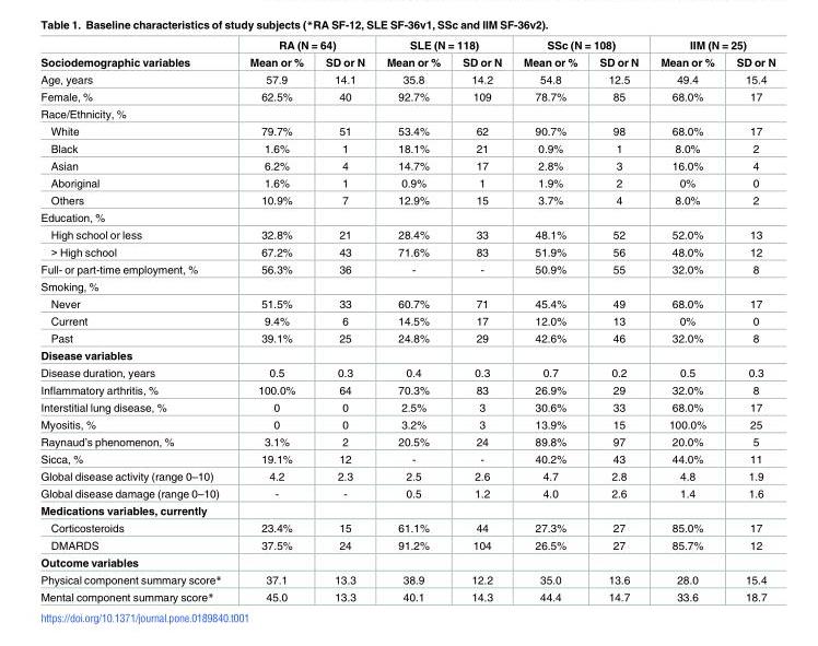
<table><thead><tr><td rowspan="2">Sociodemographic variables</td><td colspan="2">RA (N = 64)</td><td colspan="2">SLE (N = 118)</td><td colspan="2">SSc (N = 108)</td><td colspan="2">IIM (N = 25)</td></tr><tr><td>Mean or %</td><td>SD or N</td><td>Mean or %</td><td>SD or N</td><td>Mean or %</td><td>SD or N</td><td>Mean or %</td><td>SD or N</td></tr></thead><tbody><tr><td>Age, years</td><td>57.9</td><td>14.1</td><td>35.8</td><td>14.2</td><td>54.8</td><td>12.5</td><td>49.4</td><td>15.4</td></tr><tr><td>Female, %</td><td>62.5%</td><td>40</td><td>92.7%</td><td>109</td><td>78.7%</td><td>85</td><td>68.0%</td><td>17</td></tr><tr><td colspan="9">Race/Ethnicity, %</td></tr><tr><td>White</td><td>79.7%</td><td>51</td><td>53.4%</td><td>62</td><td>90.7%</td><td>98</td><td>68.0%</td><td>17</td></tr><tr><td>Black</td><td>1.6%</td><td>1</td><td>18.1%</td><td>21</td><td>0.9%</td><td>1</td><td>8.0%</td><td>2</td></tr><tr><td>Asian</td><td>6.2%</td><td>4</td><td>14.7%</td><td>17</td><td>2.8%</td><td>3</td><td>16.0%</td><td>4</td></tr><tr><td>Aboriginal</td><td>1.6%</td><td>1</td><td>0.9%</td><td>1</td><td>1.9%</td><td>2</td><td>0%</td><td>0</td></tr><tr><td>Others</td><td>10.9%</td><td>7</td><td>12.9%</td><td>15</td><td>3.7%</td><td>4</td><td>8.0%</td><td>2</td></tr><tr><td colspan="9">Education, %</td></tr><tr><td>High school or less</td><td>32.8%</td><td>21</td><td>28.4%</td><td>33</td><td>48.1%</td><td>52</td><td>52.0%</td><td>13</td></tr><tr><td>&gt; High school</td><td>67.2%</td><td>43</td><td>71.6%</td><td>83</td><td>51.9%</td><td>56</td><td>48.0%</td><td>12</td></tr><tr><td>Full- or part-time employment, %</td><td>56.3%</td><td>36</td><td>-</td><td>-</td><td>50.9%</td><td>55</td><td>32.0%</td><td>8</td></tr><tr><td colspan="9">Smoking, %</td></tr><tr><td>Never</td><td>51.5%</td><td>33</td><td>60.7%</td><td>71</td><td>45.4%</td><td>49</td><td>68.0%</td><td>17</td></tr><tr><td>Current</td><td>9.4%</td><td>6</td><td>14.5%</td><td>17</td><td>12.0%</td><td>13</td><td>0%</td><td>0</td></tr><tr><td>Past</td><td>39.1%</td><td>25</td><td>24.8%</td><td>29</td><td>42.6%</td><td>46</td><td>32.0%</td><td>8</td></tr><tr><td colspan="9">Disease variables</td></tr><tr><td>Disease duration, years</td><td>0.5</td><td>0.3</td><td>0.4</td><td>0.3</td><td>0.7</td><td>0.2</td><td>0.5</td><td>0.3</td></tr><tr><td>Inflammatory arthritis, %</td><td>100.0%</td><td>64</td><td>70.3%</td><td>83</td><td>26.9%</td><td>29</td><td>32.0%</td><td>8</td></tr><tr><td>Interstitial lung disease, %</td><td>0</td><td>0</td><td>2.5%</td><td>3</td><td>30.6%</td><td>33</td><td>68.0%</td><td>17</td></tr><tr><td>Myositis, %</td><td>0</td><td>0</td><td>3.2%</td><td>3</td><td>13.9%</td><td>15</td><td>100.0%</td><td>25</td></tr><tr><td>Raynaud’s phenomenon, %</td><td>3.1%</td><td>2</td><td>20.5%</td><td>24</td><td>89.8%</td><td>97</td><td>20.0%</td><td>5</td></tr><tr><td>Sicca, %</td><td>19.1%</td><td>12</td><td>-</td><td>-</td><td>40.2%</td><td>43</td><td>44.0%</td><td>11</td></tr><tr><td>Global disease activity (range 0–10)</td><td>4.2</td><td>2.3</td><td>2.5</td><td>2.6</td><td>4.7</td><td>2.8</td><td>4.8</td><td>1.9</td></tr><tr><td>Global disease damage (range 0–10)</td><td>-</td><td>-</td><td>0.5</td><td>1.2</td><td>4.0</td><td>2.6</td><td>1.4</td><td>1.6</td></tr><tr><td colspan="9">Medications variables, currently</td></tr><tr><td>Corticosteroids</td><td>23.4%</td><td>15</td><td>61.1%</td><td>44</td><td>27.3%</td><td>27</td><td>85.0%</td><td>17</td></tr><tr><td>DMARDS</td><td>37.5%</td><td>24</td><td>91.2%</td><td>104</td><td>26.5%</td><td>27</td><td>85.7%</td><td>12</td></tr><tr><td colspan="9">Outcome variables</td></tr><tr><td>Physical component summary score*</td><td>37.1</td><td>13.3</td><td>38.9</td><td>12.2</td><td>35.0</td><td>13.6</td><td>28.0</td><td>15.4</td></tr><tr><td>Mental component summary score*</td><td>45.0</td><td>13.3</td><td>40.1</td><td>14.3</td><td>44.4</td><td>14.7</td><td>33.6</td><td>18.7</td></tr></tbody></table>